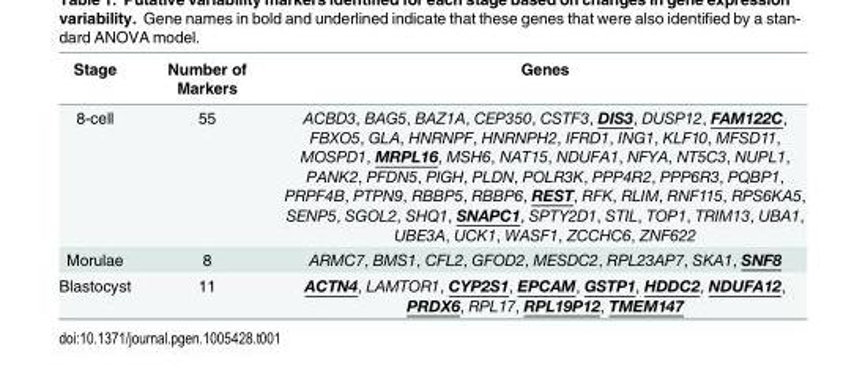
<table><thead><tr><td>Stage</td><td>Number of Markers</td><td>Genes</td></tr></thead><tbody><tr><td>8-cell</td><td>55</td><td>ACBD3, BAG5, BAZ1A, CEP350, CSTF3, DIS3, DUSP12, FAM122C, FBXO5, GLA, HNRNPF, HNRNPH2, IFRD1, ING1, KLF10, MFSD11, MOSPD1, MRPL16, MSH6, NAT15, NDUFA1, NFYA, NT5C3, NUPL1, PANK2, PFDN5, PIGH, PLDN, POLR3K, PPP4R2, PPP6R3, PQBP1, PRPF4B, PTPN9, RBBP5, RBBP6, REST, RFK, RLIM, RNF115, RPS6KA5, SENP5, SGOL2, SHQ1, SNAPC1, SPTY2D1, STIL, TOP1, TRIM13, UBA1, UBE3A, UCK1, WASF1, ZCCHC6, ZNF622</td></tr><tr><td>Morulae</td><td>8</td><td>ARMC7, BMS1, CFL2, GFOD2, MESDC2, RPL23AP7, SKA1, SNF8</td></tr><tr><td>Blastocyst</td><td>11</td><td>ACTN4, LAMTOR1, CYP2S1, EPCAM, GSTP1, HDDC2, NDUFA12, PRDX6, RPL17, RPL19P12, TMEM147</td></tr></tbody></table>